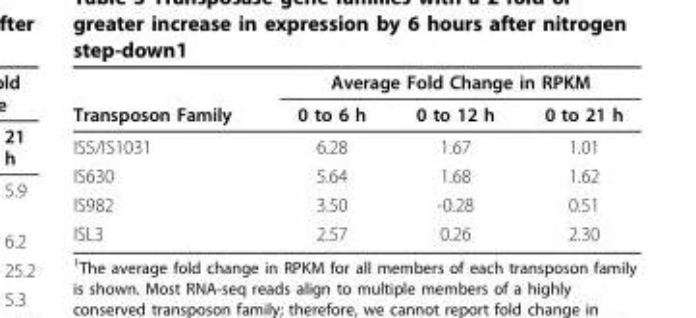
<table><thead><tr><td rowspan="2">Transposon Family</td><td colspan="3">Average Fold Change in RPKM</td></tr><tr><td>0 to 6 h</td><td>0 to 12 h</td><td>0 to 21 h</td></tr></thead><tbody><tr><td>IS5/IS1031</td><td>6.28</td><td>1.67</td><td>1.01</td></tr><tr><td>IS630</td><td>5.64</td><td>1.68</td><td>1.62</td></tr><tr><td>IS982</td><td>3.50</td><td>-0.28</td><td>0.51</td></tr><tr><td>ISL3</td><td>2.57</td><td>0.26</td><td>2.30</td></tr></tbody></table>